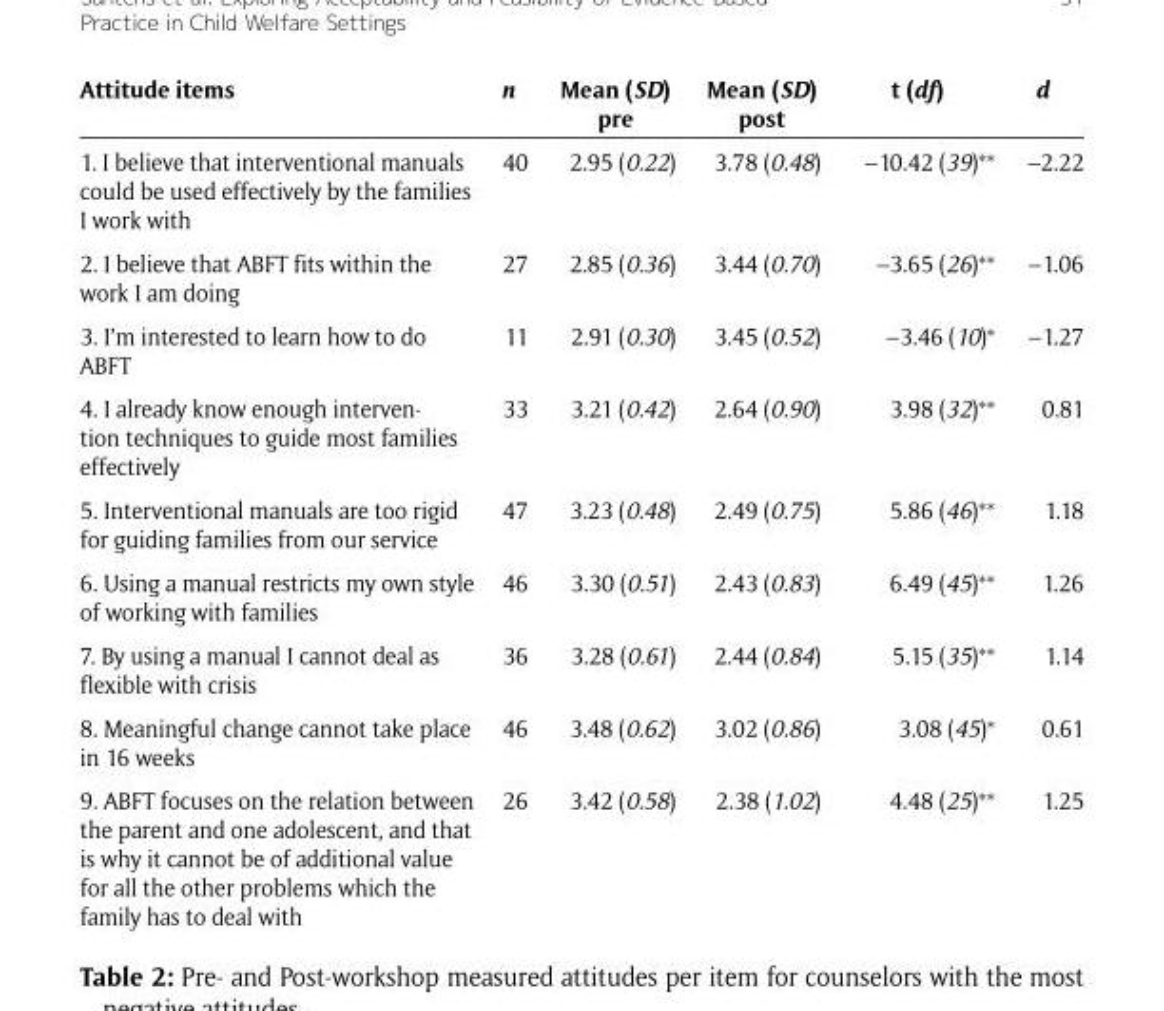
<table><thead><tr><td>Attitude items</td><td>n</td><td>Mean (SD) pre</td><td>Mean (SD) post</td><td>t (df)</td><td>d</td></tr></thead><tbody><tr><td>1. I believe that interventional manuals could be used effectively by the families I work with</td><td>40</td><td>2.95 (0.22)</td><td>3.78 (0.48)</td><td>–10.42 (39)**</td><td>–2.22</td></tr><tr><td>2. I believe that ABFT fits within the work I am doing</td><td>27</td><td>2.85 (0.36)</td><td>3.44 (0.70)</td><td>–3.65 (26)**</td><td>–1.06</td></tr><tr><td>3. I’m interested to learn how to do ABFT</td><td>11</td><td>2.91 (0.30)</td><td>3.45 (0.52)</td><td>–3.46 (10)*</td><td>–1.27</td></tr><tr><td>4. I already know enough interven- tion techniques to guide most families effectively</td><td>33</td><td>3.21 (0.42)</td><td>2.64 (0.90)</td><td>3.98 (32)**</td><td>0.81</td></tr><tr><td>5. Interventional manuals are too rigid for guiding families from our service</td><td>47</td><td>3.23 (0.48)</td><td>2.49 (0.75)</td><td>5.86 (46)**</td><td>1.18</td></tr><tr><td>6. Using a manual restricts my own style of working with families</td><td>46</td><td>3.30 (0.51)</td><td>2.43 (0.83)</td><td>6.49 (45)**</td><td>1.26</td></tr><tr><td>7. By using a manual I cannot deal as flexible with crisis</td><td>36</td><td>3.28 (0.61)</td><td>2.44 (0.84)</td><td>5.15 (35)**</td><td>1.14</td></tr><tr><td>8. Meaningful change cannot take place in 16 weeks</td><td>46</td><td>3.48 (0.62)</td><td>3.02 (0.86)</td><td>3.08 (45)*</td><td>0.61</td></tr><tr><td>9. ABFT focuses on the relation between the parent and one adolescent, and that is why it cannot be of additional value for all the other problems which the family has to deal with</td><td>26</td><td>3.42 (0.58)</td><td>2.38 (1.02)</td><td>4.48 (25)**</td><td>1.25</td></tr></tbody></table>